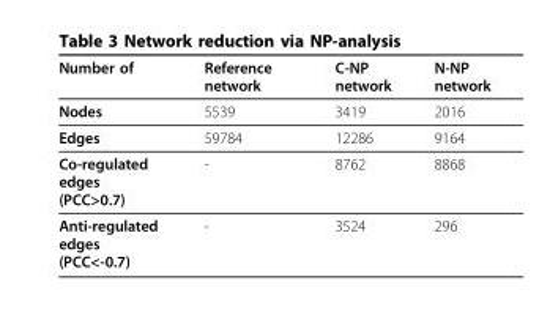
<table><thead><tr><td>Number of</td><td>Reference network</td><td>C-NP network</td><td>N-NP network</td></tr></thead><tbody><tr><td>Nodes</td><td>5539</td><td>3419</td><td>2016</td></tr><tr><td>Edges</td><td>59784</td><td>12286</td><td>9164</td></tr><tr><td>Co-regulated edges (PCC&gt;0.7)</td><td>-</td><td>8762</td><td>8868</td></tr><tr><td>Anti-regulated edges (PCC&lt;-0.7)</td><td>-</td><td>3524</td><td>296</td></tr></tbody></table>